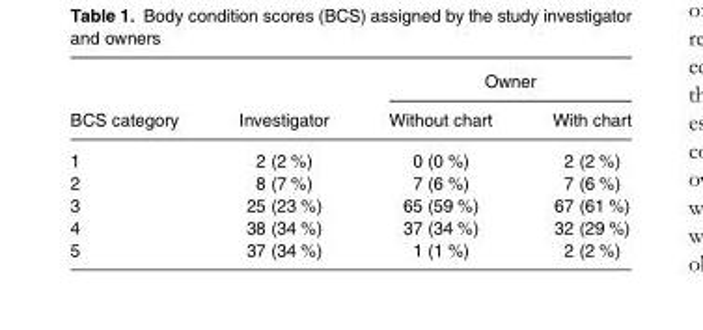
<table><thead><tr><td rowspan="2">BCS category</td><td rowspan="2">Investigator</td><td colspan="2">Owner</td></tr><tr><td>Without chart</td><td>With chart</td></tr></thead><tbody><tr><td>1</td><td>2 (2 %)</td><td>0 (0 %)</td><td>2 (2 %)</td></tr><tr><td>2</td><td>8 (7 %)</td><td>7 (6 %)</td><td>7 (6 %)</td></tr><tr><td>3</td><td>25 (23 %)</td><td>65 (59 %)</td><td>67 (61 %)</td></tr><tr><td>4</td><td>38 (34 %)</td><td>37 (34 %)</td><td>32 (29 %)</td></tr><tr><td>5</td><td>37 (34 %)</td><td>1 (1 %)</td><td>2 (2 %)</td></tr></tbody></table>